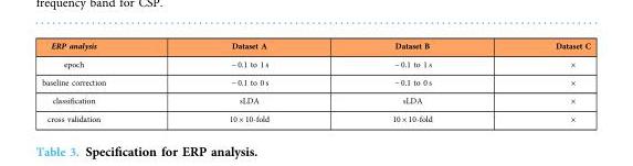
<table><thead><tr><td>ERP analysis</td><td>Dataset A</td><td>Dataset B</td><td>Dataset C</td></tr></thead><tbody><tr><td>epoch</td><td>− 0.1 to 1 s</td><td>− 0.1 to 1 s</td><td>×</td></tr><tr><td>baseline correction</td><td>− 0.1 to 0 s</td><td>− 0.1 to 0 s</td><td>×</td></tr><tr><td>classification</td><td>sLDA</td><td>sLDA</td><td>×</td></tr><tr><td>cross validation</td><td>10 × 10-fold</td><td>10 × 10-fold</td><td>×</td></tr></tbody></table>